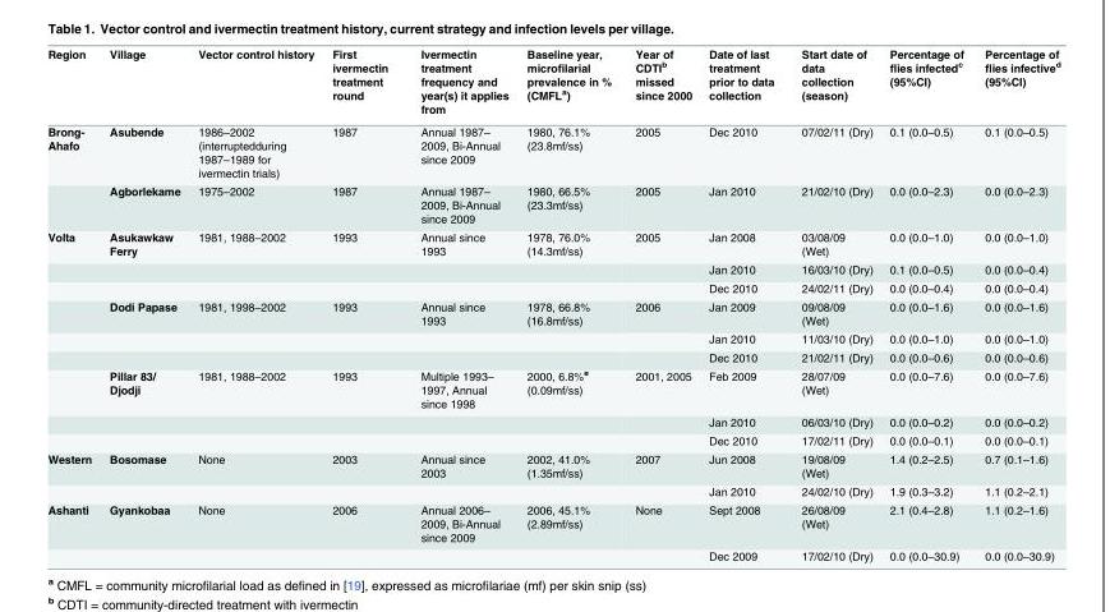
<table><thead><tr><td>Region</td><td>Village</td><td>Vector control history</td><td>First ivermectin treatment round</td><td>Ivermectin treatment frequency and year(s) it applies from</td><td>Baseline year, microfilarial prevalence in % (CMFL<sup>a</sup>)</td><td>Year of CDTI<sup>b</sup> missed since 2000</td><td>Date of last treatment prior to data collection</td><td>Start date of data collection (season)</td><td>Percentage of flies infected<sup>c</sup> (95%CI)</td><td>Percentage of flies infective<sup>d</sup> (95%CI)</td></tr></thead><tbody><tr><td rowspan="2">Brong- Ahafo</td><td>Asubende</td><td>1986–2002 (interruptedduring 1987–1989 for ivermectin trials)</td><td>1987</td><td>Annual 1987– 2009, Bi-Annual since 2009</td><td>1980, 76.1% (23.8mf/ss)</td><td>2005</td><td>Dec 2010</td><td>07/02/11 (Dry)</td><td>0.1 (0.0–0.5)</td><td>0.1 (0.0–0.5)</td></tr><tr><td>Agborlekame</td><td>1975–2002</td><td>1987</td><td>Annual 1987– 2009, Bi-Annual since 2009</td><td>1980, 66.5% (23.3mf/ss)</td><td>2005</td><td>Jan 2010</td><td>21/02/10 (Dry)</td><td>0.0 (0.0–2.3)</td><td>0.0 (0.0–2.3)</td></tr><tr><td rowspan="9">Volta</td><td>Asukawkaw Ferry</td><td>1981, 1988–2002</td><td>1993</td><td>Annual since 1993</td><td>1978, 76.0% (14.3mf/ss)</td><td>2005</td><td>Jan 2008</td><td>03/08/09 (Wet)</td><td>0.0 (0.0–1.0)</td><td>0.0 (0.0–1.0)</td></tr><tr><td></td><td></td><td></td><td></td><td></td><td></td><td>Jan 2010</td><td>16/03/10 (Dry)</td><td>0.1 (0.0–0.5)</td><td>0.0 (0.0–0.4)</td></tr><tr><td></td><td></td><td></td><td></td><td></td><td></td><td>Dec 2010</td><td>24/02/11 (Dry)</td><td>0.0 (0.0–0.4)</td><td>0.0 (0.0–0.4)</td></tr><tr><td>Dodi Papase</td><td>1981, 1998–2002</td><td>1993</td><td>Annual since 1993</td><td>1978, 66.8% (16.8mf/ss)</td><td>2006</td><td>Jan 2009</td><td>09/08/09 (Wet)</td><td>0.0 (0.0–1.6)</td><td>0.0 (0.0–1.6)</td></tr><tr><td></td><td></td><td></td><td></td><td></td><td></td><td>Jan 2010</td><td>11/03/10 (Dry)</td><td>0.0 (0.0–1.0)</td><td>0.0 (0.0–1.0)</td></tr><tr><td></td><td></td><td></td><td></td><td></td><td></td><td>Dec 2010</td><td>21/02/11 (Dry)</td><td>0.0 (0.0–0.6)</td><td>0.0 (0.0–0.6)</td></tr><tr><td>Pillar 83/ Djodji</td><td>1981, 1988–2002</td><td>1993</td><td>Multiple 1993– 1997, Annual since 1998</td><td>2000, 6.8%<sup>e</sup> (0.09mf/ss)</td><td>2001, 2005</td><td>Feb 2009</td><td>28/07/09 (Wet)</td><td>0.0 (0.0–7.6)</td><td>0.0 (0.0–7.6)</td></tr><tr><td></td><td></td><td></td><td></td><td></td><td></td><td>Jan 2010</td><td>06/03/10 (Dry)</td><td>0.0 (0.0–0.2)</td><td>0.0 (0.0–0.2)</td></tr><tr><td></td><td></td><td></td><td></td><td></td><td></td><td>Dec 2010</td><td>17/02/11 (Dry)</td><td>0.0 (0.0–0.1)</td><td>0.0 (0.0–0.1)</td></tr><tr><td rowspan="2">Western</td><td>Bosomase</td><td>None</td><td>2003</td><td>Annual since 2003</td><td>2002, 41.0% (1.35mf/ss)</td><td>2007</td><td>Jun 2008</td><td>19/08/09 (Wet)</td><td>1.4 (0.2–2.5)</td><td>0.7 (0.1–1.6)</td></tr><tr><td></td><td></td><td></td><td></td><td></td><td></td><td>Jan 2010</td><td>24/02/10 (Dry)</td><td>1.9 (0.3–3.2)</td><td>1.1 (0.2–2.1)</td></tr><tr><td rowspan="2">Ashanti</td><td>Gyankobaa</td><td>None</td><td>2006</td><td>Annual 2006– 2009, Bi-Annual since 2009</td><td>2006, 45.1% (2.89mf/ss)</td><td>None</td><td>Sept 2008</td><td>26/08/09 (Wet)</td><td>2.1 (0.4–2.8)</td><td>1.1 (0.2–1.6)</td></tr><tr><td></td><td></td><td></td><td></td><td></td><td></td><td>Dec 2009</td><td>17/02/10 (Dry)</td><td>0.0 (0.0–30.9)</td><td>0.0 (0.0–30.9)</td></tr></tbody></table>